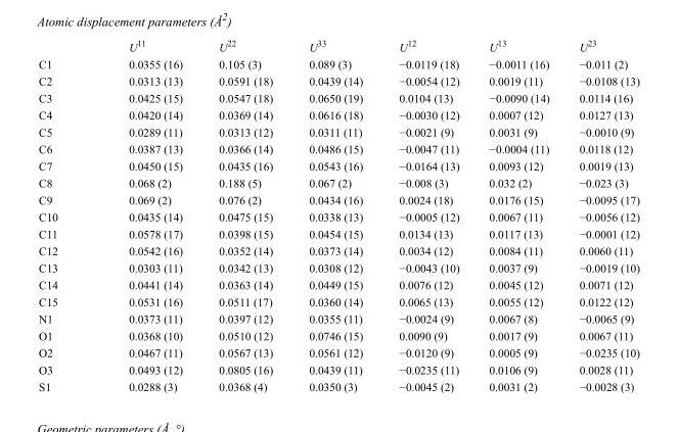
<table><thead><tr><td></td><td>U<sup>11</sup></td><td>U<sup>22</sup></td><td>U<sup>33</sup></td><td>U<sup>12</sup></td><td>U<sup>13</sup></td><td>U<sup>23</sup></td></tr></thead><tbody><tr><td>C1</td><td>0.0355 (16)</td><td>0.105 (3)</td><td>0.089 (3)</td><td>−0.0119 (18)</td><td>−0.0011 (16)</td><td>−0.011 (2)</td></tr><tr><td>C2</td><td>0.0313 (13)</td><td>0.0591 (18)</td><td>0.0439 (14)</td><td>−0.0054 (12)</td><td>0.0019 (11)</td><td>−0.0108 (13)</td></tr><tr><td>C3</td><td>0.0425 (15)</td><td>0.0547 (18)</td><td>0.0650 (19)</td><td>0.0104 (13)</td><td>−0.0090 (14)</td><td>0.0114 (16)</td></tr><tr><td>C4</td><td>0.0420 (14)</td><td>0.0369 (14)</td><td>0.0616 (18)</td><td>−0.0030 (12)</td><td>0.0007 (12)</td><td>0.0127 (13)</td></tr><tr><td>C5</td><td>0.0289 (11)</td><td>0.0313 (12)</td><td>0.0311 (11)</td><td>−0.0021 (9)</td><td>0.0031 (9)</td><td>−0.0010 (9)</td></tr><tr><td>C6</td><td>0.0387 (13)</td><td>0.0366 (14)</td><td>0.0486 (15)</td><td>−0.0047 (11)</td><td>−0.0004 (11)</td><td>0.0118 (12)</td></tr><tr><td>C7</td><td>0.0450 (15)</td><td>0.0435 (16)</td><td>0.0543 (16)</td><td>−0.0164 (13)</td><td>0.0093 (12)</td><td>0.0019 (13)</td></tr><tr><td>C8</td><td>0.068 (2)</td><td>0.188 (5)</td><td>0.067 (2)</td><td>−0.008 (3)</td><td>0.032 (2)</td><td>−0.023 (3)</td></tr><tr><td>C9</td><td>0.069 (2)</td><td>0.076 (2)</td><td>0.0434 (16)</td><td>0.0024 (18)</td><td>0.0176 (15)</td><td>−0.0095 (17)</td></tr><tr><td>C10</td><td>0.0435 (14)</td><td>0.0475 (15)</td><td>0.0338 (13)</td><td>−0.0005 (12)</td><td>0.0067 (11)</td><td>−0.0056 (12)</td></tr><tr><td>C11</td><td>0.0578 (17)</td><td>0.0398 (15)</td><td>0.0454 (15)</td><td>0.0134 (13)</td><td>0.0117 (13)</td><td>−0.0001 (12)</td></tr><tr><td>C12</td><td>0.0542 (16)</td><td>0.0352 (14)</td><td>0.0373 (14)</td><td>0.0034 (12)</td><td>0.0084 (11)</td><td>0.0060 (11)</td></tr><tr><td>C13</td><td>0.0303 (11)</td><td>0.0342 (13)</td><td>0.0308 (12)</td><td>−0.0043 (10)</td><td>0.0037 (9)</td><td>−0.0019 (10)</td></tr><tr><td>C14</td><td>0.0441 (14)</td><td>0.0363 (14)</td><td>0.0449 (15)</td><td>0.0076 (12)</td><td>0.0045 (12)</td><td>0.0071 (12)</td></tr><tr><td>C15</td><td>0.0531 (16)</td><td>0.0511 (17)</td><td>0.0360 (14)</td><td>0.0065 (13)</td><td>0.0055 (12)</td><td>0.0122 (12)</td></tr><tr><td>N1</td><td>0.0373 (11)</td><td>0.0397 (12)</td><td>0.0355 (11)</td><td>−0.0024 (9)</td><td>0.0067 (8)</td><td>−0.0065 (9)</td></tr><tr><td>O1</td><td>0.0368 (10)</td><td>0.0510 (12)</td><td>0.0746 (15)</td><td>0.0090 (9)</td><td>0.0017 (9)</td><td>0.0067 (11)</td></tr><tr><td>O2</td><td>0.0467 (11)</td><td>0.0567 (13)</td><td>0.0561 (12)</td><td>−0.0120 (9)</td><td>0.0005 (9)</td><td>−0.0235 (10)</td></tr><tr><td>O3</td><td>0.0493 (12)</td><td>0.0805 (16)</td><td>0.0439 (11)</td><td>−0.0235 (11)</td><td>0.0106 (9)</td><td>0.0028 (11)</td></tr><tr><td>S1</td><td>0.0288 (3)</td><td>0.0368 (4)</td><td>0.0350 (3)</td><td>−0.0045 (2)</td><td>0.0031 (2)</td><td>−0.0028 (3)</td></tr></tbody></table>